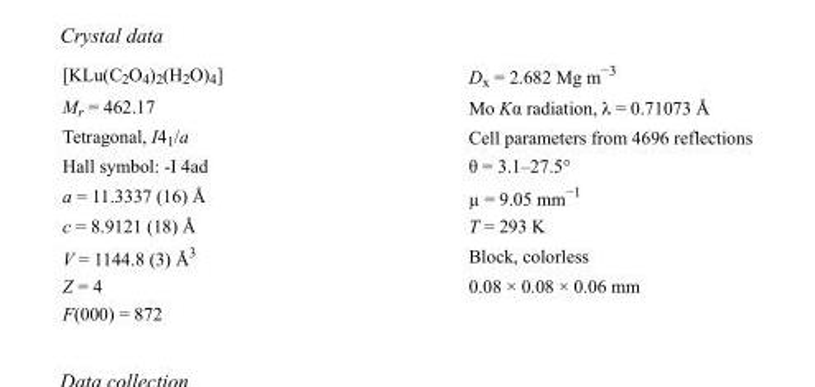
<table><tbody><tr><td>[KLu(C<sub>2</sub>O<sub>4</sub>)<sub>2</sub>(H<sub>2</sub>O)<sub>4</sub>]</td><td>D<sub>x</sub> = 2.682 Mg m<sup>−3</sup></td></tr><tr><td>M<sub>r</sub> = 462.17</td><td>Mo Kα radiation, λ = 0.71073 Å</td></tr><tr><td>Tetragonal, I4<sub>1</sub>/a</td><td>Cell parameters from 4696 reflections</td></tr><tr><td>Hall symbol: -I 4ad</td><td>θ = 3.1–27.5°</td></tr><tr><td>a = 11.3337 (16) Å</td><td>µ = 9.05 mm<sup>−1</sup></td></tr><tr><td>c = 8.9121 (18) Å</td><td>T = 293 K</td></tr><tr><td>V = 1144.8 (3) Å<sup>3</sup></td><td>Block, colorless</td></tr><tr><td>Z = 4</td><td>0.08 × 0.08 × 0.06 mm</td></tr><tr><td>F(000) = 872</td><td></td></tr></tbody></table>